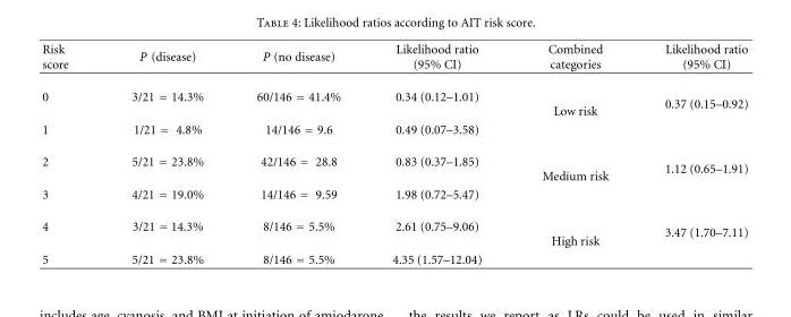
<table><thead><tr><td>Risk score</td><td>P (disease)</td><td>P (no disease)</td><td>Likelihood ratio (95% CI)</td><td>Combined categories</td><td>Likelihood ratio (95% CI)</td></tr></thead><tbody><tr><td>0</td><td>3/21 = 14.3%</td><td>60/146 = 41.4%</td><td>0.34 (0.12–1.01)</td><td>Low risk</td><td>0.37 (0.15–0.92)</td></tr><tr><td>1</td><td>1/21 = 4.8%</td><td>14/146 = 9.6</td><td>0.49 (0.07–3.58)</td><td></td><td></td></tr><tr><td>2</td><td>5/21 = 23.8%</td><td>42/146 = 28.8</td><td>0.83 (0.37–1.85)</td><td>Medium risk</td><td>1.12 (0.65–1.91)</td></tr><tr><td>3</td><td>4/21 = 19.0%</td><td>14/146 = 9.59</td><td>1.98 (0.72–5.47)</td><td></td><td></td></tr><tr><td>4</td><td>3/21 = 14.3%</td><td>8/146 = 5.5%</td><td>2.61 (0.75–9.06)</td><td>High risk</td><td>3.47 (1.70–7.11)</td></tr><tr><td>5</td><td>5/21 = 23.8%</td><td>8/146 = 5.5%</td><td>4.35 (1.57–12.04)</td><td></td><td></td></tr></tbody></table>